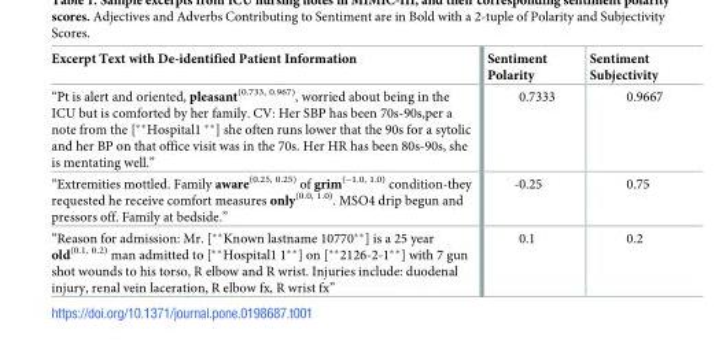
<table><thead><tr><td>Excerpt Text with De-identified Patient Information</td><td>Sentiment Polarity</td><td>Sentiment Subjectivity</td></tr></thead><tbody><tr><td>“Pt is alert and oriented, pleasant<sup>(0.733, 0.967)</sup>, worried about being in the ICU but is comforted by her family. CV: Her SBP has been 70s-90s,per a note from the [**Hospital1 **] she often runs lower that the 90s for a sytolic and her BP on that office visit was in the 70s. Her HR has been 80s-90s, she is mentating well.”</td><td>0.7333</td><td>0.9667</td></tr><tr><td>“Extremities mottled. Family aware<sup>(0.25, 0.25)</sup> of grim<sup>(−1.0, 1.0)</sup> condition-they requested he receive comfort measures only<sup>(0.0, 1.0)</sup>. MSO4 drip begun and pressors off. Family at bedside.”</td><td>-0.25</td><td>0.75</td></tr><tr><td>“Reason for admission: Mr. [**Known lastname 10770**] is a 25 year old<sup>(0.1, 0.2)</sup> man admitted to [**Hospital1 1**] on [**2126-2-1**] with 7 gun shot wounds to his torso, R elbow and R wrist. Injuries include: duodenal injury, renal vein laceration, R elbow fx, R wrist fx”</td><td>0.1</td><td>0.2</td></tr></tbody></table>